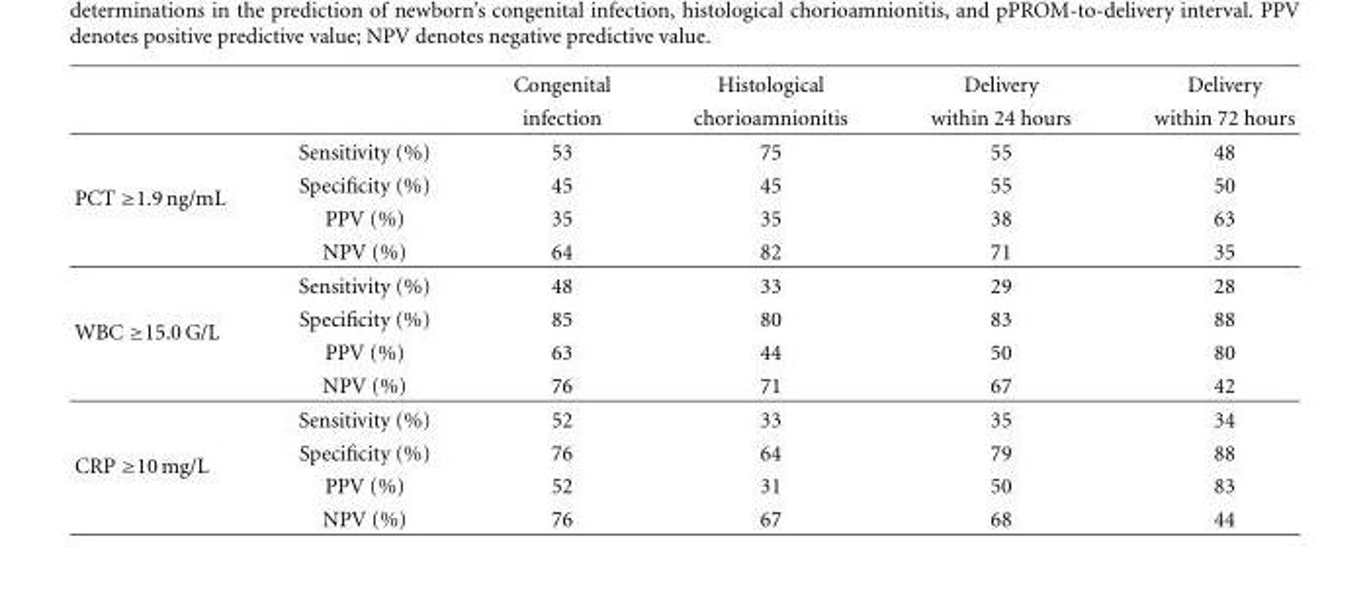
<table><thead><tr><td></td><td></td><td>Congenital</td><td>Histological</td><td>Delivery</td><td>Delivery</td></tr></thead><tbody><tr><td></td><td></td><td>infection</td><td>chorioamnionitis</td><td>within 24 hours</td><td>within 72 hours</td></tr><tr><td rowspan="4">PCT ≥1.9 ng/mL</td><td>Sensitivity (%)</td><td>53</td><td>75</td><td>55</td><td>48</td></tr><tr><td>Specificity (%)</td><td>45</td><td>45</td><td>55</td><td>50</td></tr><tr><td>PPV (%)</td><td>35</td><td>35</td><td>38</td><td>63</td></tr><tr><td>NPV (%)</td><td>64</td><td>82</td><td>71</td><td>35</td></tr><tr><td rowspan="4">WBC ≥15.0 G/L</td><td>Sensitivity (%)</td><td>48</td><td>33</td><td>29</td><td>28</td></tr><tr><td>Specificity (%)</td><td>85</td><td>80</td><td>83</td><td>88</td></tr><tr><td>PPV (%)</td><td>63</td><td>44</td><td>50</td><td>80</td></tr><tr><td>NPV (%)</td><td>76</td><td>71</td><td>67</td><td>42</td></tr><tr><td rowspan="4">CRP ≥10 mg/L</td><td>Sensitivity (%)</td><td>52</td><td>33</td><td>35</td><td>34</td></tr><tr><td>Specificity (%)</td><td>76</td><td>64</td><td>79</td><td>88</td></tr><tr><td>PPV (%)</td><td>52</td><td>31</td><td>50</td><td>83</td></tr><tr><td>NPV (%)</td><td>76</td><td>67</td><td>68</td><td>44</td></tr></tbody></table>